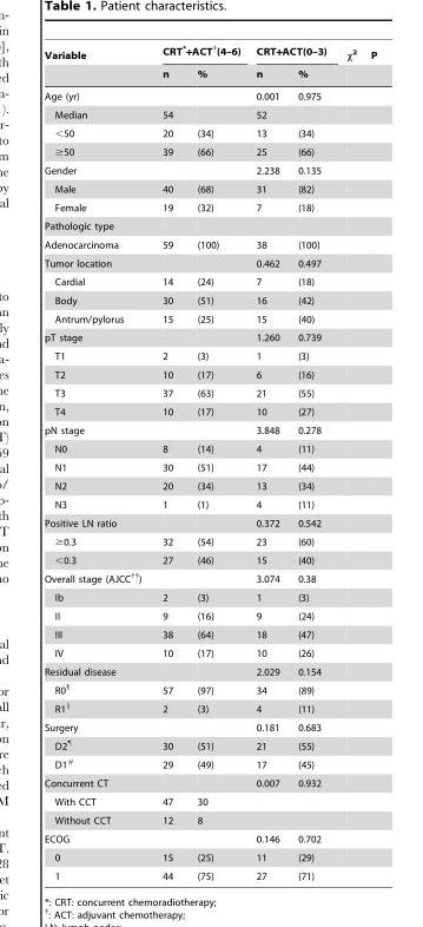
<table><thead><tr><td rowspan="2">Variable</td><td colspan="2">CRT*+ACT†(4–6)</td><td colspan="2">CRT+ACT(0–3)</td><td rowspan="2">x2</td><td rowspan="2">P</td></tr><tr><td>n</td><td>%</td><td>n</td><td>%</td></tr></thead><tbody><tr><td>Age (yr)</td><td></td><td></td><td>0.001</td><td>0.975</td><td></td><td></td></tr><tr><td>Median</td><td>54</td><td></td><td>52</td><td></td><td></td><td></td></tr><tr><td>&lt;50</td><td>20</td><td>(34)</td><td>13</td><td>(34)</td><td></td><td></td></tr><tr><td>≥50</td><td>39</td><td>(66)</td><td>25</td><td>(66)</td><td></td><td></td></tr><tr><td>Gender</td><td></td><td></td><td>2.238</td><td>0.135</td><td></td><td></td></tr><tr><td>Male</td><td>40</td><td>(68)</td><td>31</td><td>(82)</td><td></td><td></td></tr><tr><td>Female</td><td>19</td><td>(32)</td><td>7</td><td>(18)</td><td></td><td></td></tr><tr><td colspan="7">Pathologic type</td></tr><tr><td>Adenocarcinoma</td><td>59</td><td>(100)</td><td>38</td><td>(100)</td><td></td><td></td></tr><tr><td>Tumor location</td><td></td><td></td><td>0.462</td><td>0.497</td><td></td><td></td></tr><tr><td>Cardial</td><td>14</td><td>(24)</td><td>7</td><td>(18)</td><td></td><td></td></tr><tr><td>Body</td><td>30</td><td>(51)</td><td>16</td><td>(42)</td><td></td><td></td></tr><tr><td>Antrum/pylorus</td><td>15</td><td>(25)</td><td>15</td><td>(40)</td><td></td><td></td></tr><tr><td>pT stage</td><td></td><td></td><td>1.260</td><td>0.739</td><td></td><td></td></tr><tr><td>T1</td><td>2</td><td>(3)</td><td>1</td><td>(3)</td><td></td><td></td></tr><tr><td>T2</td><td>10</td><td>(17)</td><td>6</td><td>(16)</td><td></td><td></td></tr><tr><td>T3</td><td>37</td><td>(63)</td><td>21</td><td>(55)</td><td></td><td></td></tr><tr><td>T4</td><td>10</td><td>(17)</td><td>10</td><td>(27)</td><td></td><td></td></tr><tr><td>pN stage</td><td></td><td></td><td>3.848</td><td>0.278</td><td></td><td></td></tr><tr><td>N0</td><td>8</td><td>(14)</td><td>4</td><td>(11)</td><td></td><td></td></tr><tr><td>N1</td><td>30</td><td>(51)</td><td>17</td><td>(44)</td><td></td><td></td></tr><tr><td>N2</td><td>20</td><td>(34)</td><td>13</td><td>(34)</td><td></td><td></td></tr><tr><td>N3</td><td>1</td><td>(1)</td><td>4</td><td>(11)</td><td></td><td></td></tr><tr><td>Positive LN ratio</td><td></td><td></td><td>0.372</td><td>0.542</td><td></td><td></td></tr><tr><td>≥0.3</td><td>32</td><td>(54)</td><td>23</td><td>(60)</td><td></td><td></td></tr><tr><td>&lt;0.3</td><td>27</td><td>(46)</td><td>15</td><td>(40)</td><td></td><td></td></tr><tr><td>Overall stage (AJCC††)</td><td></td><td></td><td>3.074</td><td>0.38</td><td></td><td></td></tr><tr><td>Ib</td><td>2</td><td>(3)</td><td>1</td><td>(3)</td><td></td><td></td></tr><tr><td>II</td><td>9</td><td>(16)</td><td>9</td><td>(24)</td><td></td><td></td></tr><tr><td>III</td><td>38</td><td>(64)</td><td>18</td><td>(47)</td><td></td><td></td></tr><tr><td>IV</td><td>10</td><td>(17)</td><td>10</td><td>(26)</td><td></td><td></td></tr><tr><td>Residual disease</td><td></td><td></td><td>2.029</td><td>0.154</td><td></td><td></td></tr><tr><td>R0§</td><td>57</td><td>(97)</td><td>34</td><td>(89)</td><td></td><td></td></tr><tr><td>R1∥</td><td>2</td><td>(3)</td><td>4</td><td>(11)</td><td></td><td></td></tr><tr><td>Surgery</td><td></td><td></td><td>0.181</td><td>0.683</td><td></td><td></td></tr><tr><td>D2¶</td><td>30</td><td>(51)</td><td>21</td><td>(55)</td><td></td><td></td></tr><tr><td>D1#</td><td>29</td><td>(49)</td><td>17</td><td>(45)</td><td></td><td></td></tr><tr><td>Concurrent CT</td><td></td><td></td><td>0.007</td><td>0.932</td><td></td><td></td></tr><tr><td>With CCT</td><td>47</td><td>30</td><td></td><td></td><td></td><td></td></tr><tr><td>Without CCT</td><td>12</td><td>8</td><td></td><td></td><td></td><td></td></tr><tr><td>ECOG</td><td></td><td></td><td>0.146</td><td>0.702</td><td></td><td></td></tr><tr><td>0</td><td>15</td><td>(25)</td><td>11</td><td>(29)</td><td></td><td></td></tr><tr><td>1</td><td>44</td><td>(75)</td><td>27</td><td>(71)</td><td></td><td></td></tr></tbody></table>